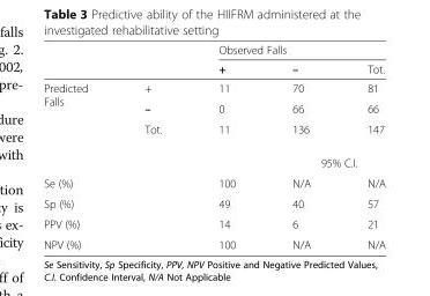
<table><thead><tr><td rowspan="2"></td><td rowspan="2"></td><td colspan="3">Observed Falls</td></tr><tr><td>+</td><td>–</td><td>Tot.</td></tr></thead><tbody><tr><td rowspan="4">Predicted Falls</td><td>+</td><td>11</td><td>70</td><td>81</td></tr><tr><td>–</td><td>0</td><td>66</td><td>66</td></tr><tr><td>Tot.</td><td>11</td><td>136</td><td>147</td></tr><tr><td></td><td></td><td colspan="2">95% C.I.</td></tr><tr><td colspan="2">Se (%)</td><td>100</td><td>N/A</td><td>N/A</td></tr><tr><td colspan="2">Sp (%)</td><td>49</td><td>40</td><td>57</td></tr><tr><td colspan="2">PPV (%)</td><td>14</td><td>6</td><td>21</td></tr><tr><td colspan="2">NPV (%)</td><td>100</td><td>N/A</td><td>N/A</td></tr></tbody></table>